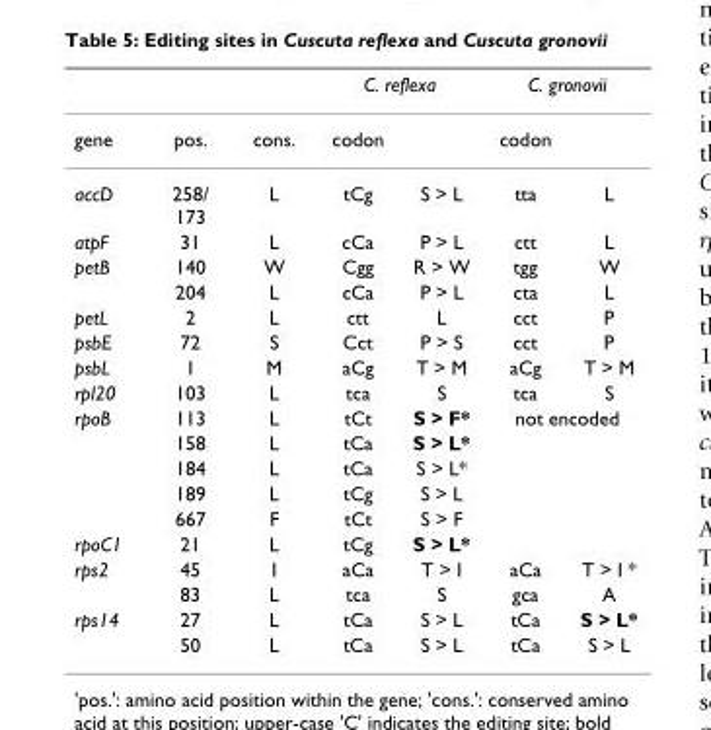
<table><thead><tr><td rowspan="2">gene</td><td rowspan="2">pos.</td><td rowspan="2">cons.</td><td colspan="2">C. reflexa</td><td colspan="2">C. gronovii</td></tr><tr><td>codon</td><td></td><td>codon</td><td></td></tr></thead><tbody><tr><td>accD</td><td>258/ 173</td><td>L</td><td>tCg</td><td>S &gt; L</td><td>tta</td><td>L</td></tr><tr><td>atpF</td><td>31</td><td>L</td><td>cCa</td><td>P &gt; L</td><td>ctt</td><td>L</td></tr><tr><td rowspan="2">petB</td><td>140</td><td>W</td><td>Cgg</td><td>R &gt; W</td><td>tgg</td><td>W</td></tr><tr><td>204</td><td>L</td><td>cCa</td><td>P &gt; L</td><td>cta</td><td>L</td></tr><tr><td>petL</td><td>2</td><td>L</td><td>ctt</td><td>L</td><td>cct</td><td>P</td></tr><tr><td>psbE</td><td>72</td><td>S</td><td>Cct</td><td>P &gt; S</td><td>cct</td><td>P</td></tr><tr><td>psbL</td><td>1</td><td>M</td><td>aCg</td><td>T &gt; M</td><td>aCg</td><td>T &gt; M</td></tr><tr><td>rpl20</td><td>103</td><td>L</td><td>tca</td><td>S</td><td>tca</td><td>S</td></tr><tr><td rowspan="5">rpoB</td><td>113</td><td>L</td><td>tCt</td><td>S &gt; F*</td><td colspan="2">not encoded</td></tr><tr><td>158</td><td>L</td><td>tCa</td><td>S &gt; L*</td><td></td><td></td></tr><tr><td>184</td><td>L</td><td>tCa</td><td>S &gt; L*</td><td></td><td></td></tr><tr><td>189</td><td>L</td><td>tCg</td><td>S &gt; L</td><td></td><td></td></tr><tr><td>667</td><td>F</td><td>tCt</td><td>S &gt; F</td><td></td><td></td></tr><tr><td>rpoC1</td><td>21</td><td>L</td><td>tCg</td><td>S &gt; L*</td><td></td><td></td></tr><tr><td rowspan="2">rps2</td><td>45</td><td>I</td><td>aCa</td><td>T &gt; I</td><td>aCa</td><td>T &gt; I *</td></tr><tr><td>83</td><td>L</td><td>tca</td><td>S</td><td>gca</td><td>A</td></tr><tr><td rowspan="2">rps14</td><td>27</td><td>L</td><td>tCa</td><td>S &gt; L</td><td>tCa</td><td>S &gt; L*</td></tr><tr><td>50</td><td>L</td><td>tCa</td><td>S &gt; L</td><td>tCa</td><td>S &gt; L</td></tr></tbody></table>